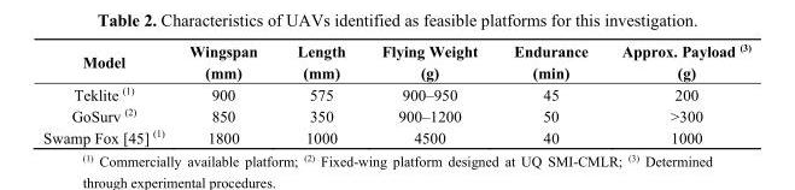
<table><thead><tr><td>Model</td><td>Wingspan (mm)</td><td>Length (mm)</td><td>Flying Weight (g)</td><td>Endurance (min)</td><td>Approx. Payload <sup>(3)</sup> (g)</td></tr></thead><tbody><tr><td>Teklite <sup>(1)</sup></td><td>900</td><td>575</td><td>900–950</td><td>45</td><td>200</td></tr><tr><td>GoSurv <sup>(2)</sup></td><td>850</td><td>350</td><td>900–1200</td><td>50</td><td>&gt;300</td></tr><tr><td>Swamp Fox [45] <sup>(1)</sup></td><td>1800</td><td>1000</td><td>4500</td><td>40</td><td>1000</td></tr></tbody></table>